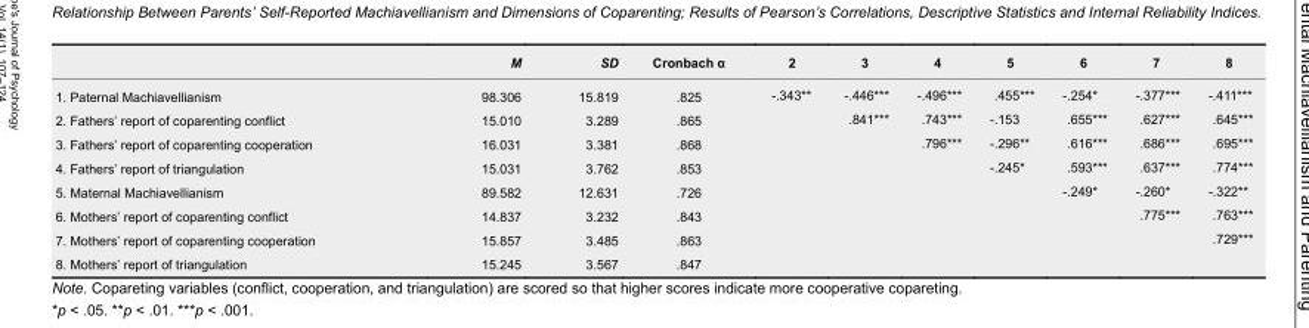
<table><thead><tr><td></td><td>M</td><td>SD</td><td>Cronbach α</td><td>2</td><td>3</td><td>4</td><td>5</td><td>6</td><td>7</td><td>8</td></tr></thead><tbody><tr><td>1. Paternal Machiavellianism</td><td>98.306</td><td>15.819</td><td>.825</td><td>-.343**</td><td>-.446***</td><td>-.496***</td><td>.455***</td><td>-.254*</td><td>-.377***</td><td>-.411***</td></tr><tr><td>2. Fathers’ report of coparenting conflict</td><td>15.010</td><td>3.289</td><td>.865</td><td></td><td>.841***</td><td>.743***</td><td>-.153</td><td>.655***</td><td>.627***</td><td>.645***</td></tr><tr><td>3. Fathers’ report of coparenting cooperation</td><td>16.031</td><td>3.381</td><td>.868</td><td></td><td></td><td>.796***</td><td>-.296**</td><td>.616***</td><td>.686***</td><td>.695***</td></tr><tr><td>4. Fathers’ report of triangulation</td><td>15.031</td><td>3.762</td><td>.853</td><td></td><td></td><td></td><td>-.245*</td><td>.593***</td><td>.637***</td><td>.774***</td></tr><tr><td>5. Maternal Machiavellianism</td><td>89.582</td><td>12.631</td><td>.726</td><td></td><td></td><td></td><td></td><td>-.249*</td><td>-.260*</td><td>-.322**</td></tr><tr><td>6. Mothers’ report of coparenting conflict</td><td>14.837</td><td>3.232</td><td>.843</td><td></td><td></td><td></td><td></td><td></td><td>.775***</td><td>.763***</td></tr><tr><td>7. Mothers’ report of coparenting cooperation</td><td>15.857</td><td>3.485</td><td>.863</td><td></td><td></td><td></td><td></td><td></td><td></td><td>.729***</td></tr><tr><td>8. Mothers’ report of triangulation</td><td>15.245</td><td>3.567</td><td>.847</td><td></td><td></td><td></td><td></td><td></td><td></td><td></td></tr></tbody></table>